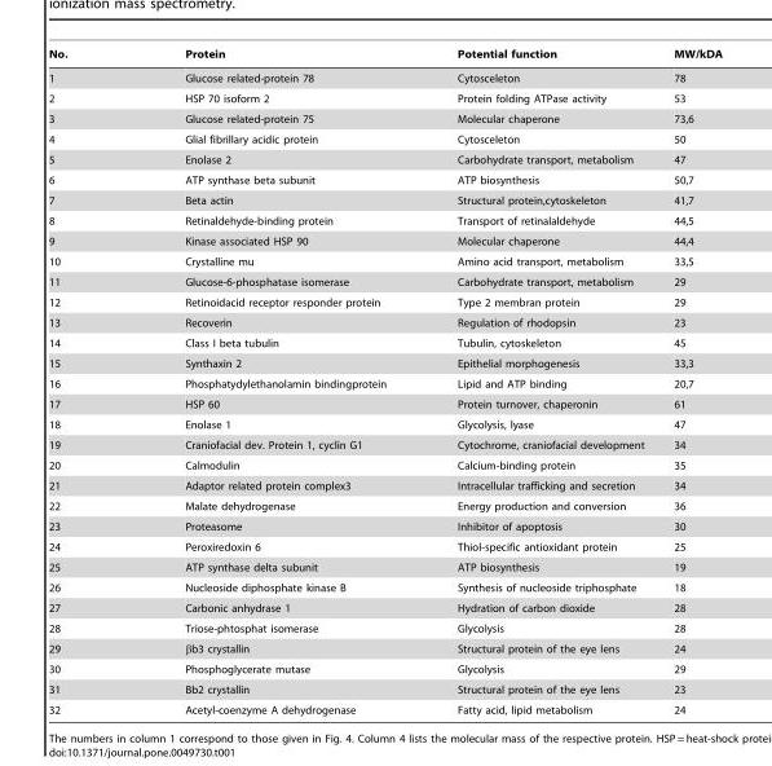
<table><thead><tr><td>No.</td><td>Protein</td><td>Potential function</td><td>MW/kDA</td></tr></thead><tbody><tr><td>1</td><td>Glucose related-protein 78</td><td>Cytosceleton</td><td>78</td></tr><tr><td>2</td><td>HSP 70 isoform 2</td><td>Protein folding ATPase activity</td><td>53</td></tr><tr><td>3</td><td>Glucose related-protein 75</td><td>Molecular chaperone</td><td>73,6</td></tr><tr><td>4</td><td>Glial fibrillary acidic protein</td><td>Cytosceleton</td><td>50</td></tr><tr><td>5</td><td>Enolase 2</td><td>Carbohydrate transport, metabolism</td><td>47</td></tr><tr><td>6</td><td>ATP synthase beta subunit</td><td>ATP biosynthesis</td><td>50,7</td></tr><tr><td>7</td><td>Beta actin</td><td>Structural protein,cytoskeleton</td><td>41,7</td></tr><tr><td>8</td><td>Retinaldehyde-binding protein</td><td>Transport of retinalaldehyde</td><td>44,5</td></tr><tr><td>9</td><td>Kinase associated HSP 90</td><td>Molecular chaperone</td><td>44,4</td></tr><tr><td>10</td><td>Crystalline mu</td><td>Amino acid transport, metabolism</td><td>33,5</td></tr><tr><td>11</td><td>Glucose-6-phosphatase isomerase</td><td>Carbohydrate transport, metabolism</td><td>29</td></tr><tr><td>12</td><td>Retinoidacid receptor responder protein</td><td>Type 2 membran protein</td><td>29</td></tr><tr><td>13</td><td>Recoverin</td><td>Regulation of rhodopsin</td><td>23</td></tr><tr><td>14</td><td>Class I beta tubulin</td><td>Tubulin, cytoskeleton</td><td>45</td></tr><tr><td>15</td><td>Synthaxin 2</td><td>Epithelial morphogenesis</td><td>33,3</td></tr><tr><td>16</td><td>Phosphatydylethanolamin bindingprotein</td><td>Lipid and ATP binding</td><td>20,7</td></tr><tr><td>17</td><td>HSP 60</td><td>Protein turnover, chaperonin</td><td>61</td></tr><tr><td>18</td><td>Enolase 1</td><td>Glycolysis, lyase</td><td>47</td></tr><tr><td>19</td><td>Craniofacial dev. Protein 1, cyclin G1</td><td>Cytochrome, craniofacial development</td><td>34</td></tr><tr><td>20</td><td>Calmodulin</td><td>Calcium-binding protein</td><td>35</td></tr><tr><td>21</td><td>Adaptor related protein complex3</td><td>Intracellular trafficking and secretion</td><td>34</td></tr><tr><td>22</td><td>Malate dehydrogenase</td><td>Energy production and conversion</td><td>36</td></tr><tr><td>23</td><td>Proteasome</td><td>Inhibitor of apoptosis</td><td>30</td></tr><tr><td>24</td><td>Peroxiredoxin 6</td><td>Thiol-specific antioxidant protein</td><td>25</td></tr><tr><td>25</td><td>ATP synthase delta subunit</td><td>ATP biosynthesis</td><td>19</td></tr><tr><td>26</td><td>Nucleoside diphosphate kinase B</td><td>Synthesis of nucleoside triphosphate</td><td>18</td></tr><tr><td>27</td><td>Carbonic anhydrase 1</td><td>Hydration of carbon dioxide</td><td>28</td></tr><tr><td>28</td><td>Triose-phtosphat isomerase</td><td>Glycolysis</td><td>28</td></tr><tr><td>29</td><td>βb3 crystallin</td><td>Structural protein of the eye lens</td><td>24</td></tr><tr><td>30</td><td>Phosphoglycerate mutase</td><td>Glycolysis</td><td>29</td></tr><tr><td>31</td><td>Bb2 crystallin</td><td>Structural protein of the eye lens</td><td>23</td></tr><tr><td>32</td><td>Acetyl-coenzyme A dehydrogenase</td><td>Fatty acid, lipid metabolism</td><td>24</td></tr></tbody></table>